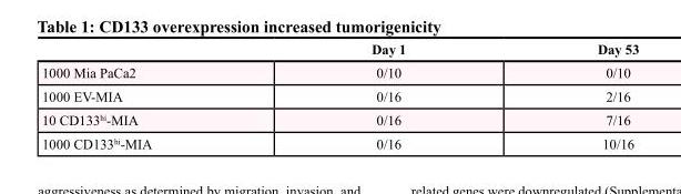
<table><thead><tr><td></td><td>Day 1</td><td>Day 53</td></tr></thead><tbody><tr><td>1000 Mia PaCa2</td><td>0/10</td><td>0/10</td></tr><tr><td>1000 EV-MIA</td><td>0/16</td><td>2/16</td></tr><tr><td>10 CD133<sup>hi</sup>-MIA</td><td>0/16</td><td>7/16</td></tr><tr><td>1000 CD133<sup>hi</sup>-MIA</td><td>0/16</td><td>10/16</td></tr></tbody></table>